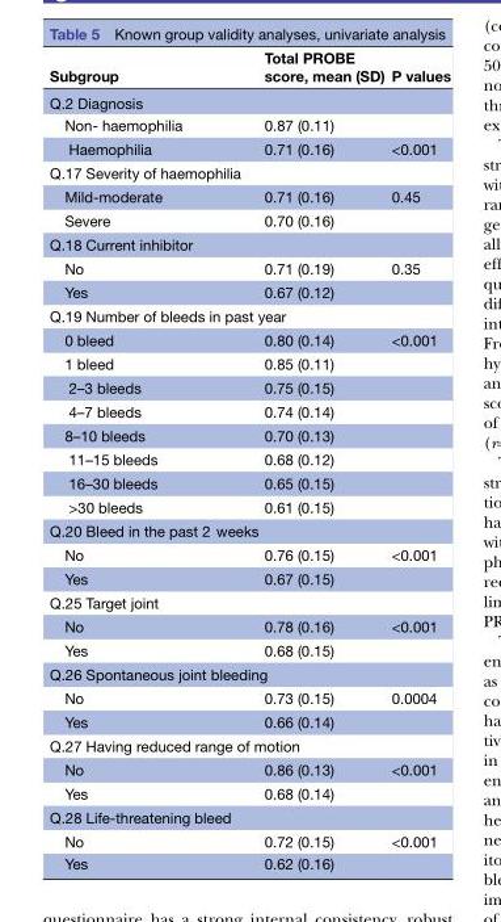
<table><thead><tr><td>Subgroup</td><td>Total PROBE score, mean (SD)</td><td>P values</td></tr></thead><tbody><tr><td colspan="3">Q.2 Diagnosis</td></tr><tr><td>Non- haemophilia</td><td>0.87 (0.11)</td><td></td></tr><tr><td>Haemophilia</td><td>0.71 (0.16)</td><td>&lt;0.001</td></tr><tr><td colspan="3">Q.17 Severity of haemophilia</td></tr><tr><td>Mild-moderate</td><td>0.71 (0.16)</td><td>0.45</td></tr><tr><td>Severe</td><td>0.70 (0.16)</td><td></td></tr><tr><td colspan="3">Q.18 Current inhibitor</td></tr><tr><td>No</td><td>0.71 (0.19)</td><td>0.35</td></tr><tr><td>Yes</td><td>0.67 (0.12)</td><td></td></tr><tr><td colspan="3">Q.19 Number of bleeds in past year</td></tr><tr><td>0 bleed</td><td>0.80 (0.14)</td><td>&lt;0.001</td></tr><tr><td>1 bleed</td><td>0.85 (0.11)</td><td></td></tr><tr><td>2–3 bleeds</td><td>0.75 (0.15)</td><td></td></tr><tr><td>4–7 bleeds</td><td>0.74 (0.14)</td><td></td></tr><tr><td>8–10 bleeds</td><td>0.70 (0.13)</td><td></td></tr><tr><td>11–15 bleeds</td><td>0.68 (0.12)</td><td></td></tr><tr><td>16–30 bleeds</td><td>0.65 (0.15)</td><td></td></tr><tr><td>&gt;30 bleeds</td><td>0.61 (0.15)</td><td></td></tr><tr><td colspan="3">Q.20 Bleed in the past 2 weeks</td></tr><tr><td>No</td><td>0.76 (0.15)</td><td>&lt;0.001</td></tr><tr><td>Yes</td><td>0.67 (0.15)</td><td></td></tr><tr><td colspan="3">Q.25 Target joint</td></tr><tr><td>No</td><td>0.78 (0.16)</td><td>&lt;0.001</td></tr><tr><td>Yes</td><td>0.68 (0.15)</td><td></td></tr><tr><td colspan="3">Q.26 Spontaneous joint bleeding</td></tr><tr><td>No</td><td>0.73 (0.15)</td><td>0.0004</td></tr><tr><td>Yes</td><td>0.66 (0.14)</td><td></td></tr><tr><td colspan="3">Q.27 Having reduced range of motion</td></tr><tr><td>No</td><td>0.86 (0.13)</td><td>&lt;0.001</td></tr><tr><td>Yes</td><td>0.68 (0.14)</td><td></td></tr><tr><td colspan="3">Q.28 Life-threatening bleed</td></tr><tr><td>No</td><td>0.72 (0.15)</td><td>&lt;0.001</td></tr><tr><td>Yes</td><td>0.62 (0.16)</td><td></td></tr></tbody></table>